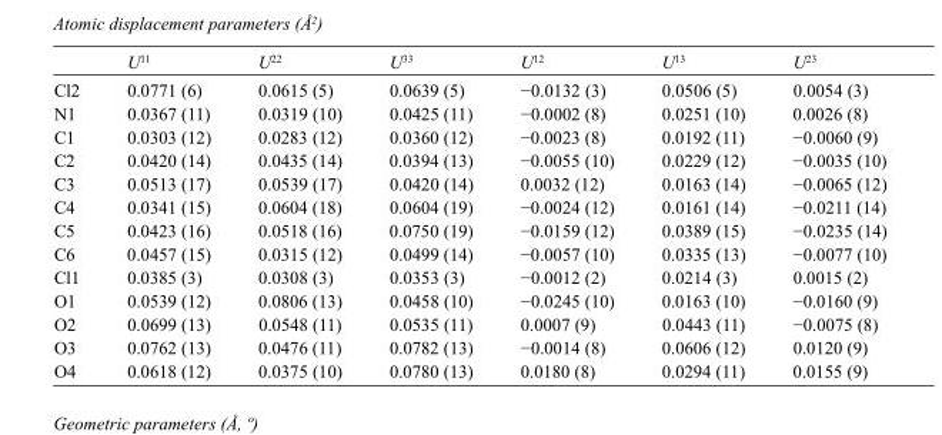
<table><thead><tr><td></td><td>U<sup>11</sup></td><td>U<sup>22</sup></td><td>U<sup>33</sup></td><td>U<sup>12</sup></td><td>U<sup>13</sup></td><td>U<sup>23</sup></td></tr></thead><tbody><tr><td>Cl2</td><td>0.0771 (6)</td><td>0.0615 (5)</td><td>0.0639 (5)</td><td>−0.0132 (3)</td><td>0.0506 (5)</td><td>0.0054 (3)</td></tr><tr><td>N1</td><td>0.0367 (11)</td><td>0.0319 (10)</td><td>0.0425 (11)</td><td>−0.0002 (8)</td><td>0.0251 (10)</td><td>0.0026 (8)</td></tr><tr><td>C1</td><td>0.0303 (12)</td><td>0.0283 (12)</td><td>0.0360 (12)</td><td>−0.0023 (8)</td><td>0.0192 (11)</td><td>−0.0060 (9)</td></tr><tr><td>C2</td><td>0.0420 (14)</td><td>0.0435 (14)</td><td>0.0394 (13)</td><td>−0.0055 (10)</td><td>0.0229 (12)</td><td>−0.0035 (10)</td></tr><tr><td>C3</td><td>0.0513 (17)</td><td>0.0539 (17)</td><td>0.0420 (14)</td><td>0.0032 (12)</td><td>0.0163 (14)</td><td>−0.0065 (12)</td></tr><tr><td>C4</td><td>0.0341 (15)</td><td>0.0604 (18)</td><td>0.0604 (19)</td><td>−0.0024 (12)</td><td>0.0161 (14)</td><td>−0.0211 (14)</td></tr><tr><td>C5</td><td>0.0423 (16)</td><td>0.0518 (16)</td><td>0.0750 (19)</td><td>−0.0159 (12)</td><td>0.0389 (15)</td><td>−0.0235 (14)</td></tr><tr><td>C6</td><td>0.0457 (15)</td><td>0.0315 (12)</td><td>0.0499 (14)</td><td>−0.0057 (10)</td><td>0.0335 (13)</td><td>−0.0077 (10)</td></tr><tr><td>Cl1</td><td>0.0385 (3)</td><td>0.0308 (3)</td><td>0.0353 (3)</td><td>−0.0012 (2)</td><td>0.0214 (3)</td><td>0.0015 (2)</td></tr><tr><td>O1</td><td>0.0539 (12)</td><td>0.0806 (13)</td><td>0.0458 (10)</td><td>−0.0245 (10)</td><td>0.0163 (10)</td><td>−0.0160 (9)</td></tr><tr><td>O2</td><td>0.0699 (13)</td><td>0.0548 (11)</td><td>0.0535 (11)</td><td>0.0007 (9)</td><td>0.0443 (11)</td><td>−0.0075 (8)</td></tr><tr><td>O3</td><td>0.0762 (13)</td><td>0.0476 (11)</td><td>0.0782 (13)</td><td>−0.0014 (8)</td><td>0.0606 (12)</td><td>0.0120 (9)</td></tr><tr><td>O4</td><td>0.0618 (12)</td><td>0.0375 (10)</td><td>0.0780 (13)</td><td>0.0180 (8)</td><td>0.0294 (11)</td><td>0.0155 (9)</td></tr></tbody></table>